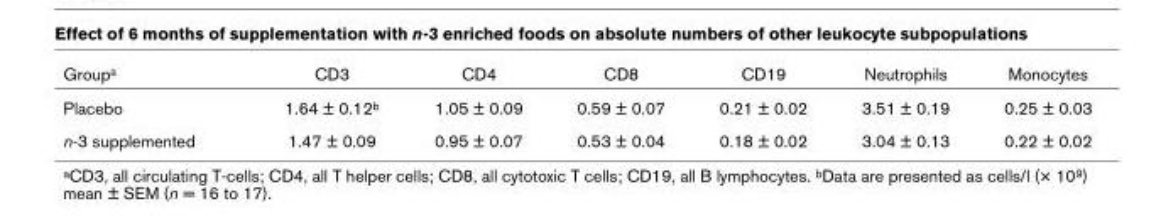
<table><thead><tr><td>Group<sup>a</sup></td><td>CD3</td><td>CD4</td><td>CD8</td><td>CD19</td><td>Neutrophils</td><td>Monocytes</td></tr></thead><tbody><tr><td>Placebo</td><td>1.64 ± 0.12<sup>b</sup></td><td>1.05 ± 0.09</td><td>0.59 ± 0.07</td><td>0.21 ± 0.02</td><td>3.51 ± 0.19</td><td>0.25 ± 0.03</td></tr><tr><td>n-3 supplemented</td><td>1.47 ± 0.09</td><td>0.95 ± 0.07</td><td>0.53 ± 0.04</td><td>0.18 ± 0.02</td><td>3.04 ± 0.13</td><td>0.22 ± 0.02</td></tr></tbody></table>